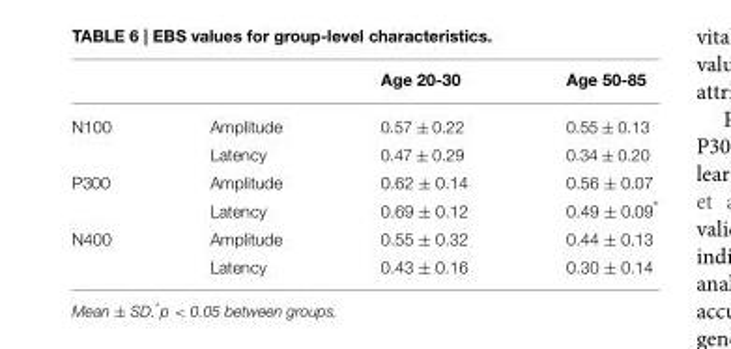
<table><thead><tr><td></td><td></td><td>Age 20-30</td><td>Age 50-85</td></tr></thead><tbody><tr><td rowspan="2">N100</td><td>Amplitude</td><td>0.57 ± 0.22</td><td>0.55 ± 0.13</td></tr><tr><td>Latency</td><td>0.47 ± 0.29</td><td>0.34 ± 0.20</td></tr><tr><td rowspan="2">P300</td><td>Amplitude</td><td>0.62 ± 0.14</td><td>0.56 ± 0.07</td></tr><tr><td>Latency</td><td>0.69 ± 0.12</td><td>0.49 ± 0.09*</td></tr><tr><td rowspan="2">N400</td><td>Amplitude</td><td>0.55 ± 0.32</td><td>0.44 ± 0.13</td></tr><tr><td>Latency</td><td>0.43 ± 0.16</td><td>0.30 ± 0.14</td></tr></tbody></table>